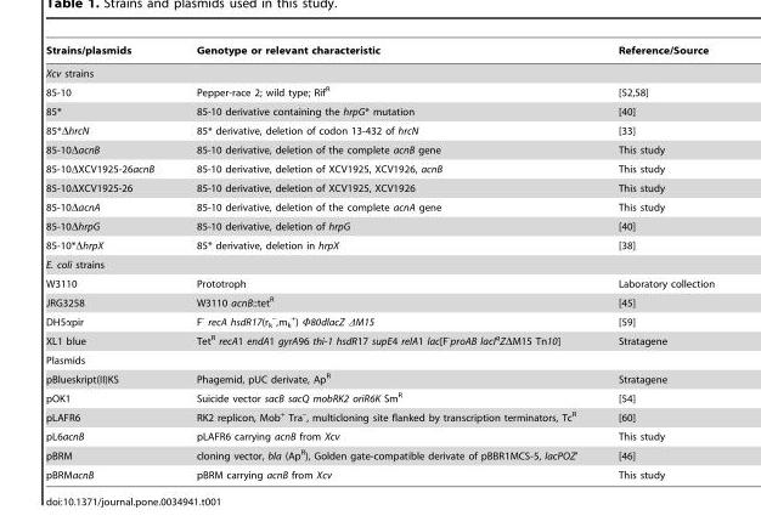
<table><thead><tr><td>Strains/plasmids</td><td>Genotype or relevant characteristic</td><td>Reference/Source</td></tr></thead><tbody><tr><td colspan="3">Xcv strains</td></tr><tr><td>85-10</td><td>Pepper-race 2; wild type; Rif<sup>R</sup></td><td>[52,58]</td></tr><tr><td>85*</td><td>85-10 derivative containing the hrpG* mutation</td><td>[40]</td></tr><tr><td>85*ΔhrcN</td><td>85* derivative, deletion of codon 13-432 of hrcN</td><td>[33]</td></tr><tr><td>85-10ΔacnB</td><td>85-10 derivative, deletion of the complete acnB gene</td><td>This study</td></tr><tr><td>85-10ΔXCV1925-26acnB</td><td>85-10 derivative, deletion of XCV1925, XCV1926, acnB</td><td>This study</td></tr><tr><td>85-10ΔXCV1925-26</td><td>85-10 derivative, deletion of XCV1925, XCV1926</td><td>This study</td></tr><tr><td>85-10ΔacnA</td><td>85-10 derivative, deletion of the complete acnA gene</td><td>This study</td></tr><tr><td>85-10ΔhrpG</td><td>85-10 derivative, deletion of hrpG</td><td>[40]</td></tr><tr><td>85-10*ΔhrpX</td><td>85* derivative, deletion in hrpX</td><td>[38]</td></tr><tr><td colspan="3">E. coli strains</td></tr><tr><td>W3110</td><td>Prototroph</td><td>Laboratory collection</td></tr><tr><td>JRG3258</td><td>W3110 acnB::tet<sup>R</sup></td><td>[45]</td></tr><tr><td>DH5αpir</td><td>F<sup>-</sup> recA hsdR17(r<sub>k</sub> <sup>–</sup>,m<sub>k</sub> <sup>+</sup>) Φ80dlacZ ΔM15</td><td>[59]</td></tr><tr><td>XL1 blue</td><td>Tet<sup>R</sup> recA1 endA1 gyrA96 thi-1 hsdR17 supE4 relA1 lac[F<sup>-</sup>proAB lacI<sup>q</sup>ZΔM15 Tn10]</td><td>Stratagene</td></tr><tr><td colspan="3">Plasmids</td></tr><tr><td>pBlueskript(II)KS</td><td>Phagemid, pUC derivate, Ap<sup>R</sup></td><td>Stratagene</td></tr><tr><td>pOK1</td><td>Suicide vector sacB sacQ mobRK2 oriR6K Sm<sup>R</sup></td><td>[54]</td></tr><tr><td>pLAFR6</td><td>RK2 replicon, Mob<sup>+</sup> Tra<sup>–</sup>, multicloning site flanked by transcription terminators, Tc<sup>R</sup></td><td>[60]</td></tr><tr><td>pL6acnB</td><td>pLAFR6 carrying acnB from Xcv</td><td>This study</td></tr><tr><td>pBRM</td><td>cloning vector, bla (Ap<sup>R</sup>), Golden gate-compatible derivate of pBBR1MCS-5, lacPOZ’</td><td>[46]</td></tr><tr><td>pBRMacnB</td><td>pBRM carrying acnB from Xcv</td><td>This study</td></tr></tbody></table>